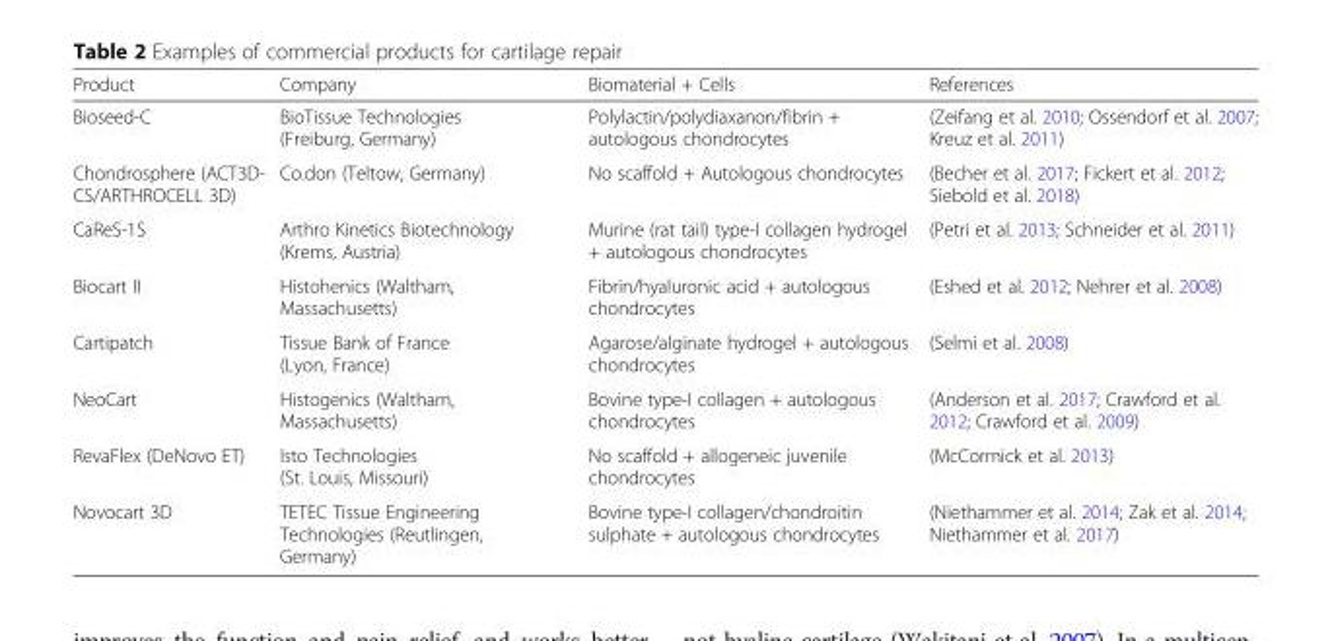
<table><thead><tr><td>Product</td><td>Company</td><td>Biomaterial + Cells</td><td>References</td></tr></thead><tbody><tr><td>Bioseed-C</td><td>BioTissue Technologies (Freiburg, Germany)</td><td>Polylactin/polydiaxanon/fibrin + autologous chondrocytes</td><td>(Zeifang et al. 2010; Ossendorf et al. 2007; Kreuz et al. 2011)</td></tr><tr><td>Chondrosphere (ACT3D- CS/ARTHROCELL 3D)</td><td>Co.don (Teltow, Germany)</td><td>No scaffold + Autologous chondrocytes</td><td>(Becher et al. 2017; Fickert et al. 2012; Siebold et al. 2018)</td></tr><tr><td>CaReS-1S</td><td>Arthro Kinetics Biotechnology (Krems, Austria)</td><td>Murine (rat tail) type-I collagen hydrogel + autologous chondrocytes</td><td>(Petri et al. 2013; Schneider et al. 2011)</td></tr><tr><td>Biocart II</td><td>Histohenics (Waltham, Massachusetts)</td><td>Fibrin/hyaluronic acid + autologous chondrocytes</td><td>(Eshed et al. 2012; Nehrer et al. 2008)</td></tr><tr><td>Cartipatch</td><td>Tissue Bank of France (Lyon, France)</td><td>Agarose/alginate hydrogel + autologous chondrocytes</td><td>(Selmi et al. 2008)</td></tr><tr><td>NeoCart</td><td>Histogenics (Waltham, Massachusetts)</td><td>Bovine type-I collagen + autologous chondrocytes</td><td>(Anderson et al. 2017; Crawford et al. 2012; Crawford et al. 2009)</td></tr><tr><td>RevaFlex (DeNovo ET)</td><td>Isto Technologies (St. Louis, Missouri)</td><td>No scaffold + allogeneic juvenile chondrocytes</td><td>(McCormick et al. 2013)</td></tr><tr><td>Novocart 3D</td><td>TETEC Tissue Engineering Technologies (Reutlingen, Germany)</td><td>Bovine type-I collagen/chondroitin sulphate + autologous chondrocytes</td><td>(Niethammer et al. 2014; Zak et al. 2014; Niethammer et al. 2017)</td></tr></tbody></table>